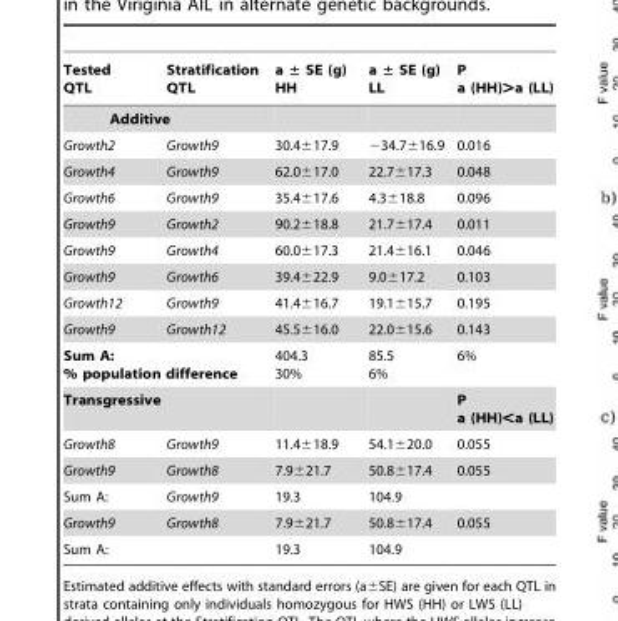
<table><thead><tr><td>Tested QTL</td><td>Stratification QTL</td><td>a ± SE (g) HH</td><td>a ± SE (g) LL</td><td>P a (HH)&gt;a (LL)</td></tr></thead><tbody><tr><td colspan="5">Additive</td></tr><tr><td>Growth2</td><td>Growth9</td><td>30.4±17.9</td><td>−34.7±16.9</td><td>0.016</td></tr><tr><td>Growth4</td><td>Growth9</td><td>62.0±17.0</td><td>22.7±17.3</td><td>0.048</td></tr><tr><td>Growth6</td><td>Growth9</td><td>35.4±17.6</td><td>4.3±18.8</td><td>0.096</td></tr><tr><td>Growth9</td><td>Growth2</td><td>90.2±18.8</td><td>21.7±17.4</td><td>0.011</td></tr><tr><td>Growth9</td><td>Growth4</td><td>60.0±17.3</td><td>21.4±16.1</td><td>0.046</td></tr><tr><td>Growth9</td><td>Growth6</td><td>39.4±22.9</td><td>9.0±17.2</td><td>0.103</td></tr><tr><td>Growth12</td><td>Growth9</td><td>41.4±16.7</td><td>19.1±15.7</td><td>0.195</td></tr><tr><td>Growth9</td><td>Growth12</td><td>45.5±16.0</td><td>22.0±15.6</td><td>0.143</td></tr><tr><td colspan="2">Sum A: % population difference</td><td>404.3 30%</td><td>85.5 6%</td><td>6%</td></tr><tr><td colspan="2">Transgressive</td><td></td><td></td><td>P a (HH)&lt;a (LL)</td></tr><tr><td>Growth8</td><td>Growth9</td><td>11.4±18.9</td><td>54.1±20.0</td><td>0.055</td></tr><tr><td>Growth9</td><td>Growth8</td><td>7.9±21.7</td><td>50.8±17.4</td><td>0.055</td></tr><tr><td>Sum A:</td><td>Growth9</td><td>19.3</td><td>104.9</td><td></td></tr><tr><td>Growth9</td><td>Growth8</td><td>7.9±21.7</td><td>50.8±17.4</td><td>0.055</td></tr><tr><td colspan="2">Sum A:</td><td>19.3</td><td>104.9</td><td></td></tr></tbody></table>